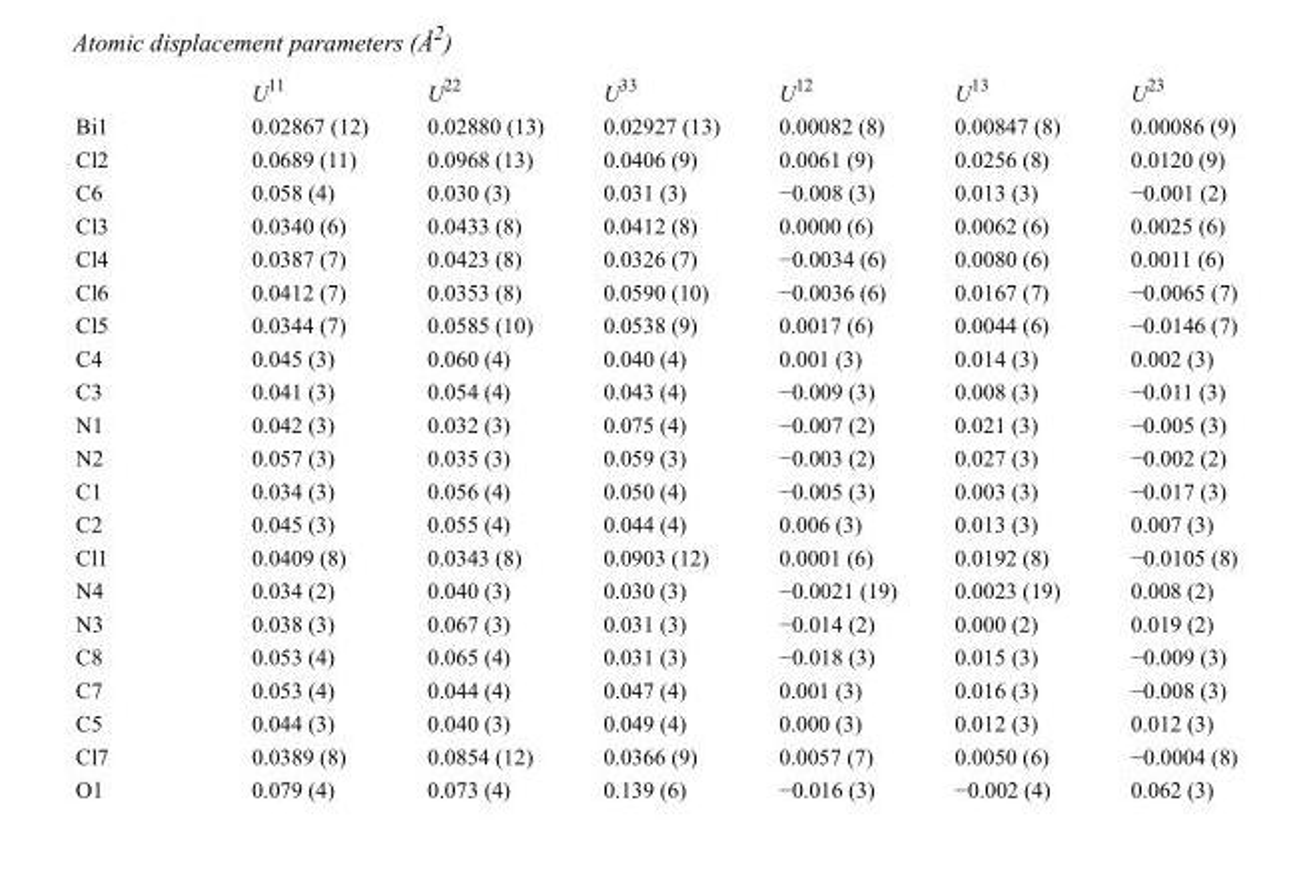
<table><thead><tr><td></td><td>U<sup>11</sup></td><td>U<sup>22</sup></td><td>U<sup>33</sup></td><td>U<sup>12</sup></td><td>U<sup>13</sup></td><td>U<sup>23</sup></td></tr></thead><tbody><tr><td>Bi1</td><td>0.02867 (12)</td><td>0.02880 (13)</td><td>0.02927 (13)</td><td>0.00082 (8)</td><td>0.00847 (8)</td><td>0.00086 (9)</td></tr><tr><td>Cl2</td><td>0.0689 (11)</td><td>0.0968 (13)</td><td>0.0406 (9)</td><td>0.0061 (9)</td><td>0.0256 (8)</td><td>0.0120 (9)</td></tr><tr><td>C6</td><td>0.058 (4)</td><td>0.030 (3)</td><td>0.031 (3)</td><td>−0.008 (3)</td><td>0.013 (3)</td><td>−0.001 (2)</td></tr><tr><td>Cl3</td><td>0.0340 (6)</td><td>0.0433 (8)</td><td>0.0412 (8)</td><td>0.0000 (6)</td><td>0.0062 (6)</td><td>0.0025 (6)</td></tr><tr><td>Cl4</td><td>0.0387 (7)</td><td>0.0423 (8)</td><td>0.0326 (7)</td><td>−0.0034 (6)</td><td>0.0080 (6)</td><td>0.0011 (6)</td></tr><tr><td>Cl6</td><td>0.0412 (7)</td><td>0.0353 (8)</td><td>0.0590 (10)</td><td>−0.0036 (6)</td><td>0.0167 (7)</td><td>−0.0065 (7)</td></tr><tr><td>Cl5</td><td>0.0344 (7)</td><td>0.0585 (10)</td><td>0.0538 (9)</td><td>0.0017 (6)</td><td>0.0044 (6)</td><td>−0.0146 (7)</td></tr><tr><td>C4</td><td>0.045 (3)</td><td>0.060 (4)</td><td>0.040 (4)</td><td>0.001 (3)</td><td>0.014 (3)</td><td>0.002 (3)</td></tr><tr><td>C3</td><td>0.041 (3)</td><td>0.054 (4)</td><td>0.043 (4)</td><td>−0.009 (3)</td><td>0.008 (3)</td><td>−0.011 (3)</td></tr><tr><td>N1</td><td>0.042 (3)</td><td>0.032 (3)</td><td>0.075 (4)</td><td>−0.007 (2)</td><td>0.021 (3)</td><td>−0.005 (3)</td></tr><tr><td>N2</td><td>0.057 (3)</td><td>0.035 (3)</td><td>0.059 (3)</td><td>−0.003 (2)</td><td>0.027 (3)</td><td>−0.002 (2)</td></tr><tr><td>C1</td><td>0.034 (3)</td><td>0.056 (4)</td><td>0.050 (4)</td><td>−0.005 (3)</td><td>0.003 (3)</td><td>−0.017 (3)</td></tr><tr><td>C2</td><td>0.045 (3)</td><td>0.055 (4)</td><td>0.044 (4)</td><td>0.006 (3)</td><td>0.013 (3)</td><td>0.007 (3)</td></tr><tr><td>Cl1</td><td>0.0409 (8)</td><td>0.0343 (8)</td><td>0.0903 (12)</td><td>0.0001 (6)</td><td>0.0192 (8)</td><td>−0.0105 (8)</td></tr><tr><td>N4</td><td>0.034 (2)</td><td>0.040 (3)</td><td>0.030 (3)</td><td>−0.0021 (19)</td><td>0.0023 (19)</td><td>0.008 (2)</td></tr><tr><td>N3</td><td>0.038 (3)</td><td>0.067 (3)</td><td>0.031 (3)</td><td>−0.014 (2)</td><td>0.000 (2)</td><td>0.019 (2)</td></tr><tr><td>C8</td><td>0.053 (4)</td><td>0.065 (4)</td><td>0.031 (3)</td><td>−0.018 (3)</td><td>0.015 (3)</td><td>−0.009 (3)</td></tr><tr><td>C7</td><td>0.053 (4)</td><td>0.044 (4)</td><td>0.047 (4)</td><td>0.001 (3)</td><td>0.016 (3)</td><td>−0.008 (3)</td></tr><tr><td>C5</td><td>0.044 (3)</td><td>0.040 (3)</td><td>0.049 (4)</td><td>0.000 (3)</td><td>0.012 (3)</td><td>0.012 (3)</td></tr><tr><td>Cl7</td><td>0.0389 (8)</td><td>0.0854 (12)</td><td>0.0366 (9)</td><td>0.0057 (7)</td><td>0.0050 (6)</td><td>−0.0004 (8)</td></tr><tr><td>O1</td><td>0.079 (4)</td><td>0.073 (4)</td><td>0.139 (6)</td><td>−0.016 (3)</td><td>−0.002 (4)</td><td>0.062 (3)</td></tr></tbody></table>